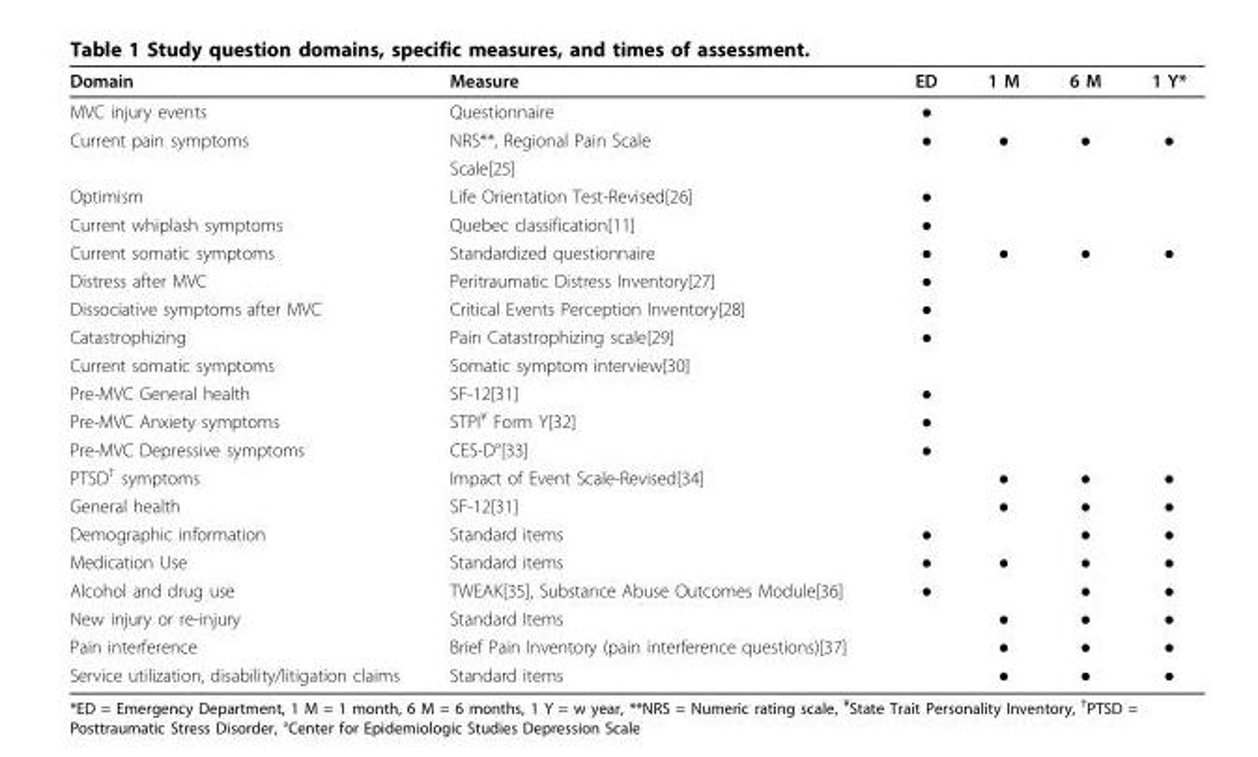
<table><thead><tr><td>Domain</td><td>Measure</td><td>ED</td><td>1 M</td><td>6 M</td><td>1 Y*</td></tr></thead><tbody><tr><td>MVC injury events</td><td>Questionnaire</td><td>●</td><td></td><td></td><td></td></tr><tr><td rowspan="2">Current pain symptoms</td><td>NRS**, Regional Pain Scale</td><td>●</td><td>●</td><td>●</td><td>●</td></tr><tr><td>Scale[25]</td><td></td><td></td><td></td><td></td></tr><tr><td>Optimism</td><td>Life Orientation Test-Revised[26]</td><td>●</td><td></td><td></td><td></td></tr><tr><td>Current whiplash symptoms</td><td>Quebec classification[11]</td><td>●</td><td></td><td></td><td></td></tr><tr><td>Current somatic symptoms</td><td>Standardized questionnaire</td><td>●</td><td>●</td><td>●</td><td>●</td></tr><tr><td>Distress after MVC</td><td>Peritraumatic Distress Inventory[27]</td><td>●</td><td></td><td></td><td></td></tr><tr><td>Dissociative symptoms after MVC</td><td>Critical Events Perception Inventory[28]</td><td>●</td><td></td><td></td><td></td></tr><tr><td>Catastrophizing</td><td>Pain Catastrophizing scale[29]</td><td>●</td><td></td><td></td><td></td></tr><tr><td>Current somatic symptoms</td><td>Somatic symptom interview[30]</td><td></td><td></td><td></td><td></td></tr><tr><td>Pre-MVC General health</td><td>SF-12[31]</td><td>●</td><td></td><td></td><td></td></tr><tr><td>Pre-MVC Anxiety symptoms</td><td>STPI<sup>¥</sup> Form Y[32]</td><td>●</td><td></td><td></td><td></td></tr><tr><td>Pre-MVC Depressive symptoms</td><td>CES-D°[33]</td><td>●</td><td></td><td></td><td></td></tr><tr><td>PTSD<sup>†</sup> symptoms</td><td>Impact of Event Scale-Revised[34]</td><td></td><td>●</td><td>●</td><td>●</td></tr><tr><td>General health</td><td>SF-12[31]</td><td></td><td>●</td><td>●</td><td>●</td></tr><tr><td>Demographic information</td><td>Standard items</td><td>●</td><td></td><td>●</td><td>●</td></tr><tr><td>Medication Use</td><td>Standard items</td><td>●</td><td>●</td><td>●</td><td>●</td></tr><tr><td>Alcohol and drug use</td><td>TWEAK[35], Substance Abuse Outcomes Module[36]</td><td>●</td><td></td><td>●</td><td>●</td></tr><tr><td>New injury or re-injury</td><td>Standard Items</td><td></td><td>●</td><td>●</td><td>●</td></tr><tr><td>Pain interference</td><td>Brief Pain Inventory (pain interference questions)[37]</td><td></td><td>●</td><td>●</td><td>●</td></tr><tr><td>Service utilization, disability/litigation claims</td><td>Standard items</td><td></td><td>●</td><td>●</td><td>●</td></tr></tbody></table>